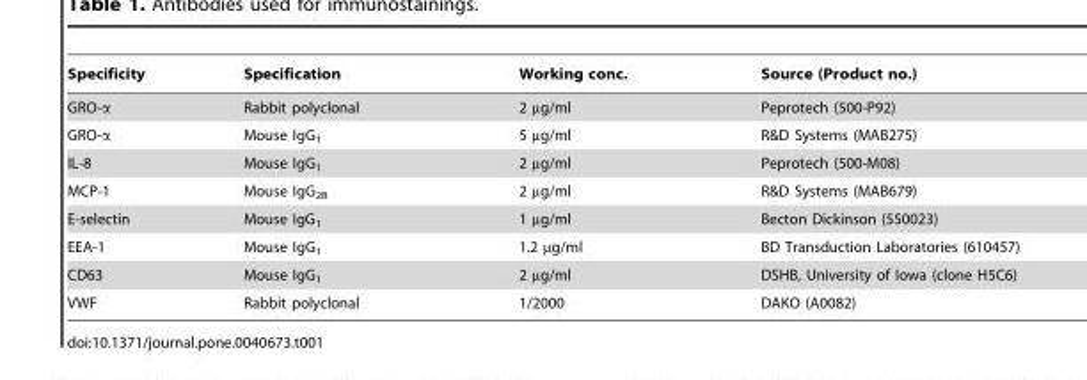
<table><thead><tr><td>Specificity</td><td>Specification</td><td>Working conc.</td><td>Source (Product no.)</td></tr></thead><tbody><tr><td>GRO-α</td><td>Rabbit polyclonal</td><td>2 µg/ml</td><td>Peprotech (500-P92)</td></tr><tr><td>GRO-α</td><td>Mouse IgG<sub>1</sub></td><td>5 µg/ml</td><td>R&amp;D Systems (MAB275)</td></tr><tr><td>IL-8</td><td>Mouse IgG<sub>1</sub></td><td>2 µg/ml</td><td>Peprotech (500-M08)</td></tr><tr><td>MCP-1</td><td>Mouse IgG<sub>2B</sub></td><td>2 µg/ml</td><td>R&amp;D Systems (MAB679)</td></tr><tr><td>E-selectin</td><td>Mouse IgG<sub>1</sub></td><td>1 µg/ml</td><td>Becton Dickinson (550023)</td></tr><tr><td>EEA-1</td><td>Mouse IgG<sub>1</sub></td><td>1.2 µg/ml</td><td>BD Transduction Laboratories (610457)</td></tr><tr><td>CD63</td><td>Mouse IgG<sub>1</sub></td><td>2 µg/ml</td><td>DSHB, University of Iowa (clone H5C6)</td></tr><tr><td>VWF</td><td>Rabbit polyclonal</td><td>1/2000</td><td>DAKO (A0082)</td></tr></tbody></table>